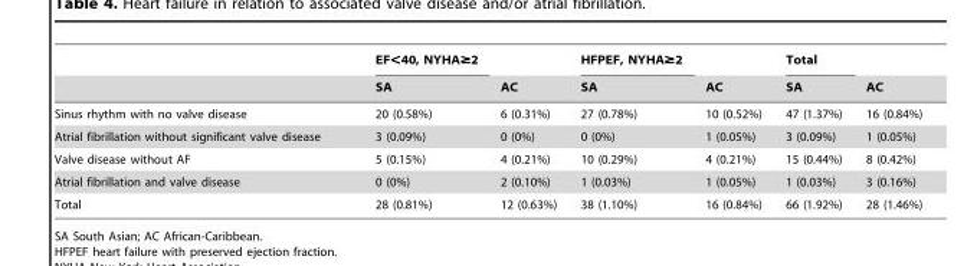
<table><thead><tr><td rowspan="2"></td><td rowspan="2">EF&lt;40, NYHA≥2 SA</td><td rowspan="2">AC</td><td rowspan="2">HFPEF, NYHA≥2 SA</td><td rowspan="2">AC</td><td rowspan="2">Total SA</td><td rowspan="2">AC</td></tr><tr></tr></thead><tbody><tr><td>Sinus rhythm with no valve disease</td><td>20 (0.58%)</td><td>6 (0.31%)</td><td>27 (0.78%)</td><td>10 (0.52%)</td><td>47 (1.37%)</td><td>16 (0.84%)</td></tr><tr><td>Atrial fibrillation without significant valve disease</td><td>3 (0.09%)</td><td>0 (0%)</td><td>0 (0%)</td><td>1 (0.05%)</td><td>3 (0.09%)</td><td>1 (0.05%)</td></tr><tr><td>Valve disease without AF</td><td>5 (0.15%)</td><td>4 (0.21%)</td><td>10 (0.29%)</td><td>4 (0.21%)</td><td>15 (0.44%)</td><td>8 (0.42%)</td></tr><tr><td>Atrial fibrillation and valve disease</td><td>0 (0%)</td><td>2 (0.10%)</td><td>1 (0.03%)</td><td>1 (0.05%)</td><td>1 (0.03%)</td><td>3 (0.16%)</td></tr><tr><td>Total</td><td>28 (0.81%)</td><td>12 (0.63%)</td><td>38 (1.10%)</td><td>16 (0.84%)</td><td>66 (1.92%)</td><td>28 (1.46%)</td></tr></tbody></table>